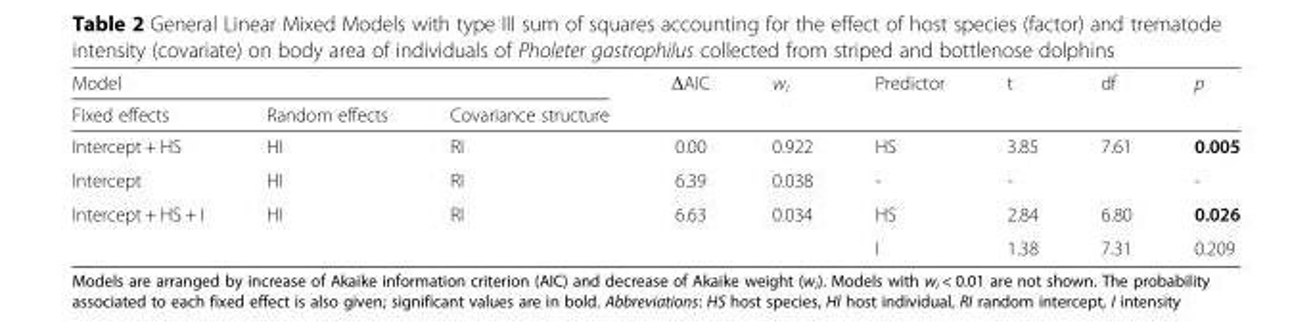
<table><thead><tr><td colspan="3">Model</td><td rowspan="2">ΔAIC</td><td rowspan="2">w<sub>i</sub></td><td rowspan="2">Predictor</td><td rowspan="2">t</td><td rowspan="2">df</td><td rowspan="2">p</td></tr><tr><td>Fixed effects</td><td>Random effects</td><td>Covariance structure</td></tr></thead><tbody><tr><td>Intercept + HS</td><td>HI</td><td>RI</td><td>0.00</td><td>0.922</td><td>HS</td><td>3.85</td><td>7.61</td><td>0.005</td></tr><tr><td>Intercept</td><td>HI</td><td>RI</td><td>6.39</td><td>0.038</td><td>-</td><td>-</td><td></td><td>-</td></tr><tr><td rowspan="2">Intercept + HS + I</td><td rowspan="2">HI</td><td rowspan="2">RI</td><td rowspan="2">6.63</td><td rowspan="2">0.034</td><td>HS</td><td>2.84</td><td>6.80</td><td>0.026</td></tr><tr><td>I</td><td>1.38</td><td>7.31</td><td>0.209</td></tr></tbody></table>